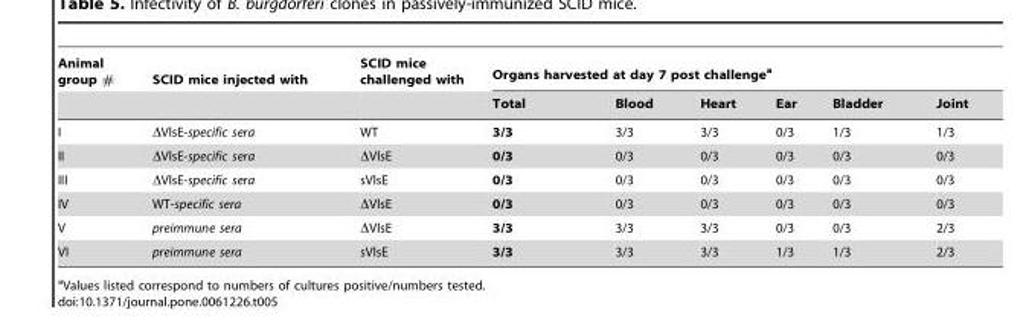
<table><thead><tr><td rowspan="2">Animal group #</td><td rowspan="2">SCID mice injected with</td><td rowspan="2">SCID mice challenged with</td><td colspan="6">Organs harvested at day 7 post challenge<sup>a</sup></td></tr><tr><td>Total</td><td>Blood</td><td>Heart</td><td>Ear</td><td>Bladder</td><td>Joint</td></tr></thead><tbody><tr><td>I</td><td>ΔVlsE-specific sera</td><td>WT</td><td>3/3</td><td>3/3</td><td>3/3</td><td>0/3</td><td>1/3</td><td>1/3</td></tr><tr><td>II</td><td>ΔVlsE-specific sera</td><td>ΔVlsE</td><td>0/3</td><td>0/3</td><td>0/3</td><td>0/3</td><td>0/3</td><td>0/3</td></tr><tr><td>III</td><td>ΔVlsE-specific sera</td><td>sVlsE</td><td>0/3</td><td>0/3</td><td>0/3</td><td>0/3</td><td>0/3</td><td>0/3</td></tr><tr><td>IV</td><td>WT-specific sera</td><td>ΔVlsE</td><td>0/3</td><td>0/3</td><td>0/3</td><td>0/3</td><td>0/3</td><td>0/3</td></tr><tr><td>V</td><td>preimmune sera</td><td>ΔVlsE</td><td>3/3</td><td>3/3</td><td>3/3</td><td>0/3</td><td>0/3</td><td>2/3</td></tr><tr><td>VI</td><td>preimmune sera</td><td>sVlsE</td><td>3/3</td><td>3/3</td><td>3/3</td><td>1/3</td><td>1/3</td><td>2/3</td></tr></tbody></table>